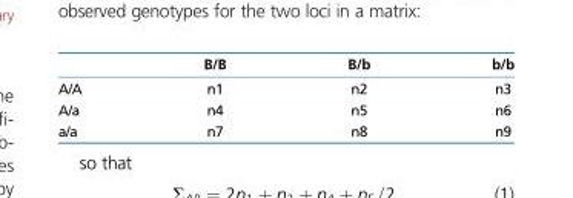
<table><thead><tr><td></td><td>B/B</td><td>B/b</td><td>b/b</td></tr></thead><tbody><tr><td>A/A</td><td>n1</td><td>n2</td><td>n3</td></tr><tr><td>A/a</td><td>n4</td><td>n5</td><td>n6</td></tr><tr><td>a/a</td><td>n7</td><td>n8</td><td>n9</td></tr></tbody></table>